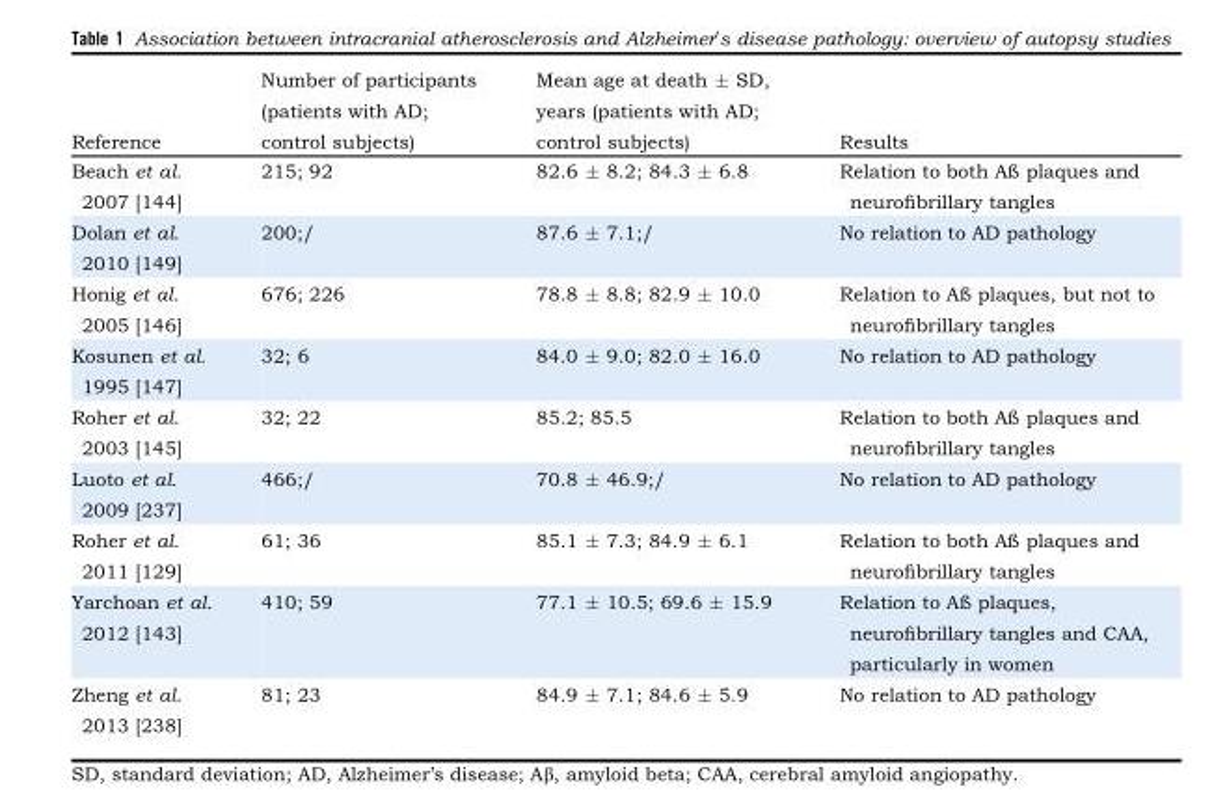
<table><thead><tr><td>Reference</td><td>Number of participants (patients with AD; control subjects)</td><td>Mean age at death ± SD, years (patients with AD; control subjects)</td><td>Results</td></tr></thead><tbody><tr><td>Beach et al. 2007 [144]</td><td>215; 92</td><td>82.6 ± 8.2; 84.3 ± 6.8</td><td>Relation to both Aß plaques and neurofibrillary tangles</td></tr><tr><td>Dolan et al. 2010 [149]</td><td>200;/</td><td>87.6 ± 7.1;/</td><td>No relation to AD pathology</td></tr><tr><td>Honig et al. 2005 [146]</td><td>676; 226</td><td>78.8 ± 8.8; 82.9 ± 10.0</td><td>Relation to Aß plaques, but not to neurofibrillary tangles</td></tr><tr><td>Kosunen et al. 1995 [147]</td><td>32; 6</td><td>84.0 ± 9.0; 82.0 ± 16.0</td><td>No relation to AD pathology</td></tr><tr><td>Roher et al. 2003 [145]</td><td>32; 22</td><td>85.2; 85.5</td><td>Relation to both Aß plaques and neurofibrillary tangles</td></tr><tr><td>Luoto et al. 2009 [237]</td><td>466;/</td><td>70.8 ± 46.9;/</td><td>No relation to AD pathology</td></tr><tr><td>Roher et al. 2011 [129]</td><td>61; 36</td><td>85.1 ± 7.3; 84.9 ± 6.1</td><td>Relation to both Aß plaques and neurofibrillary tangles</td></tr><tr><td>Yarchoan et al. 2012 [143]</td><td>410; 59</td><td>77.1 ± 10.5; 69.6 ± 15.9</td><td>Relation to Aß plaques, neurofibrillary tangles and CAA, particularly in women</td></tr><tr><td>Zheng et al. 2013 [238]</td><td>81; 23</td><td>84.9 ± 7.1; 84.6 ± 5.9</td><td>No relation to AD pathology</td></tr></tbody></table>